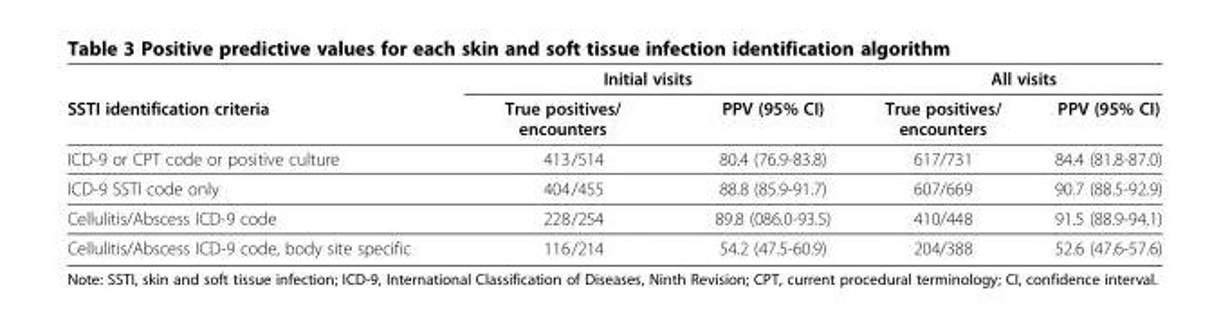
<table><thead><tr><td rowspan="2">SSTI identification criteria</td><td colspan="2">Initial visits</td><td colspan="2">All visits</td></tr><tr><td>True positives/ encounters</td><td>PPV (95% CI)</td><td>True positives/ encounters</td><td>PPV (95% CI)</td></tr></thead><tbody><tr><td>ICD-9 or CPT code or positive culture</td><td>413/514</td><td>80.4 (76.9-83.8)</td><td>617/731</td><td>84.4 (81.8-87.0)</td></tr><tr><td>ICD-9 SSTI code only</td><td>404/455</td><td>88.8 (85.9-91.7)</td><td>607/669</td><td>90.7 (88.5-92.9)</td></tr><tr><td>Cellulitis/Abscess ICD-9 code</td><td>228/254</td><td>89.8 (086.0-93.5)</td><td>410/448</td><td>91.5 (88.9-94.1)</td></tr><tr><td>Cellulitis/Abscess ICD-9 code, body site specific</td><td>116/214</td><td>54.2 (47.5-60.9)</td><td>204/388</td><td>52.6 (47.6-57.6)</td></tr></tbody></table>